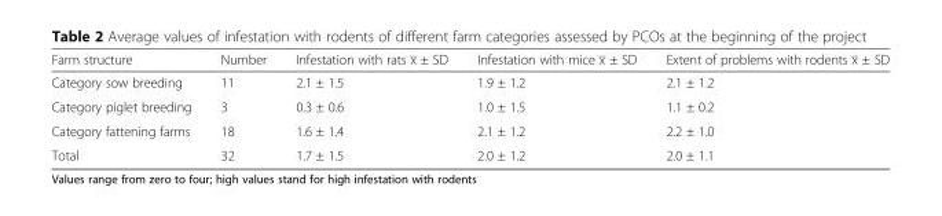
<table><thead><tr><td>Farm structure</td><td>Number</td><td>Infestation with rats x̅ ± SD</td><td>Infestation with mice x̅ ± SD</td><td>Extent of problems with rodents x̅ ± SD</td></tr></thead><tbody><tr><td>Category sow breeding</td><td>11</td><td>2.1 ± 1.5</td><td>1.9 ± 1.2</td><td>2.1 ± 1.2</td></tr><tr><td>Category piglet breeding</td><td>3</td><td>0.3 ± 0.6</td><td>1.0 ± 1.5</td><td>1.1 ± 0.2</td></tr><tr><td>Category fattening farms</td><td>18</td><td>1.6 ± 1.4</td><td>2.1 ± 1.2</td><td>2.2 ± 1.0</td></tr><tr><td>Total</td><td>32</td><td>1.7 ± 1.5</td><td>2.0 ± 1.2</td><td>2.0 ± 1.1</td></tr></tbody></table>